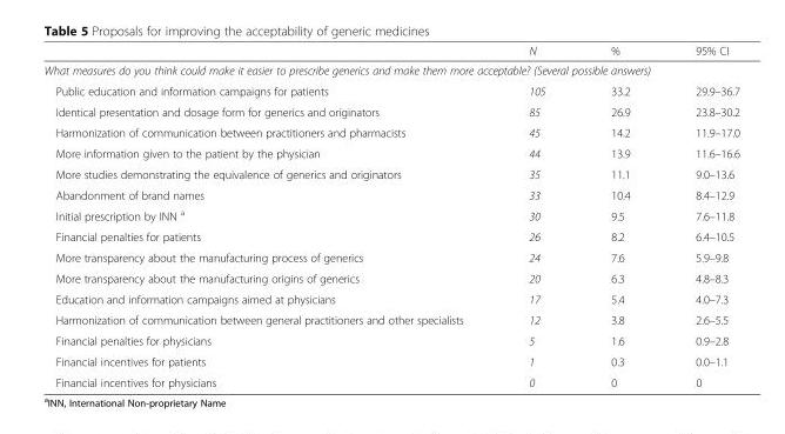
<table><thead><tr><td></td><td>N</td><td>%</td><td>95% CI</td></tr></thead><tbody><tr><td colspan="4">What measures do you think could make it easier to prescribe generics and make them more acceptable? (Several possible answers)</td></tr><tr><td>Public education and information campaigns for patients</td><td>105</td><td>33.2</td><td>29.9–36.7</td></tr><tr><td>Identical presentation and dosage form for generics and originators</td><td>85</td><td>26.9</td><td>23.8–30.2</td></tr><tr><td>Harmonization of communication between practitioners and pharmacists</td><td>45</td><td>14.2</td><td>11.9–17.0</td></tr><tr><td>More information given to the patient by the physician</td><td>44</td><td>13.9</td><td>11.6–16.6</td></tr><tr><td>More studies demonstrating the equivalence of generics and originators</td><td>35</td><td>11.1</td><td>9.0–13.6</td></tr><tr><td>Abandonment of brand names</td><td>33</td><td>10.4</td><td>8.4–12.9</td></tr><tr><td>Initial prescription by INN <sup>a</sup></td><td>30</td><td>9.5</td><td>7.6–11.8</td></tr><tr><td>Financial penalties for patients</td><td>26</td><td>8.2</td><td>6.4–10.5</td></tr><tr><td>More transparency about the manufacturing process of generics</td><td>24</td><td>7.6</td><td>5.9–9.8</td></tr><tr><td>More transparency about the manufacturing origins of generics</td><td>20</td><td>6.3</td><td>4.8–8.3</td></tr><tr><td>Education and information campaigns aimed at physicians</td><td>17</td><td>5.4</td><td>4.0–7.3</td></tr><tr><td>Harmonization of communication between general practitioners and other specialists</td><td>12</td><td>3.8</td><td>2.6–5.5</td></tr><tr><td>Financial penalties for physicians</td><td>5</td><td>1.6</td><td>0.9–2.8</td></tr><tr><td>Financial incentives for patients</td><td>1</td><td>0.3</td><td>0.0–1.1</td></tr><tr><td>Financial incentives for physicians</td><td>0</td><td>0</td><td>0</td></tr></tbody></table>